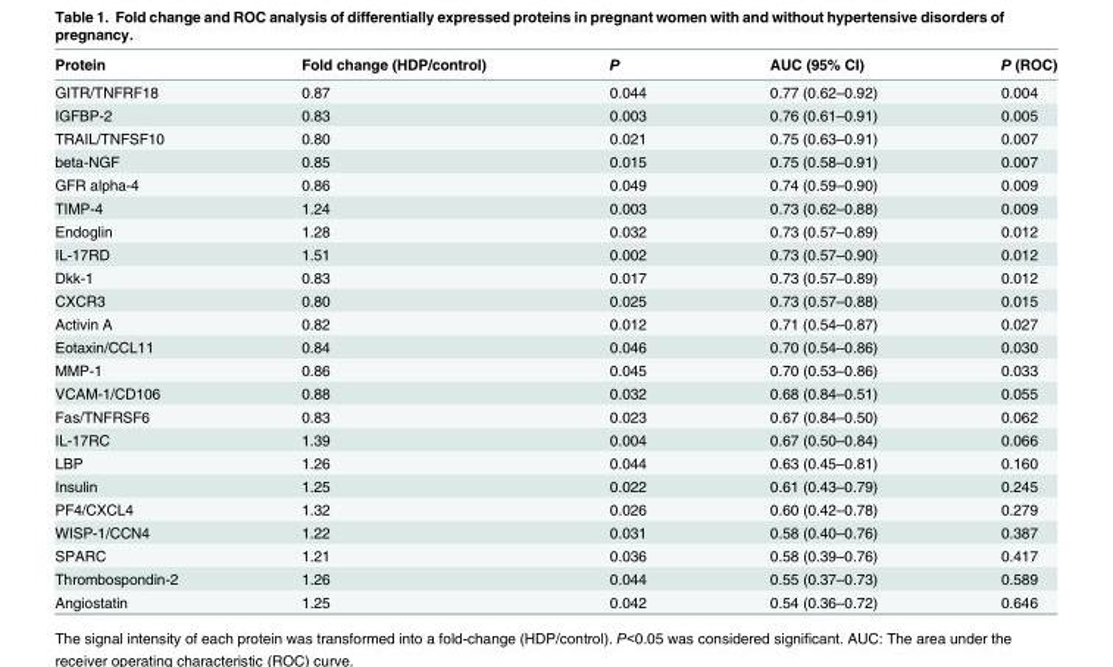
<table><thead><tr><td>Protein</td><td>Fold change (HDP/control)</td><td>P</td><td>AUC (95% CI)</td><td>P (ROC)</td></tr></thead><tbody><tr><td>GITR/TNFRF18</td><td>0.87</td><td>0.044</td><td>0.77 (0.62–0.92)</td><td>0.004</td></tr><tr><td>IGFBP-2</td><td>0.83</td><td>0.003</td><td>0.76 (0.61–0.91)</td><td>0.005</td></tr><tr><td>TRAIL/TNFSF10</td><td>0.80</td><td>0.021</td><td>0.75 (0.63–0.91)</td><td>0.007</td></tr><tr><td>beta-NGF</td><td>0.85</td><td>0.015</td><td>0.75 (0.58–0.91)</td><td>0.007</td></tr><tr><td>GFR alpha-4</td><td>0.86</td><td>0.049</td><td>0.74 (0.59–0.90)</td><td>0.009</td></tr><tr><td>TIMP-4</td><td>1.24</td><td>0.003</td><td>0.73 (0.62–0.88)</td><td>0.009</td></tr><tr><td>Endoglin</td><td>1.28</td><td>0.032</td><td>0.73 (0.57–0.89)</td><td>0.012</td></tr><tr><td>IL-17RD</td><td>1.51</td><td>0.002</td><td>0.73 (0.57–0.90)</td><td>0.012</td></tr><tr><td>Dkk-1</td><td>0.83</td><td>0.017</td><td>0.73 (0.57–0.89)</td><td>0.012</td></tr><tr><td>CXCR3</td><td>0.80</td><td>0.025</td><td>0.73 (0.57–0.88)</td><td>0.015</td></tr><tr><td>Activin A</td><td>0.82</td><td>0.012</td><td>0.71 (0.54–0.87)</td><td>0.027</td></tr><tr><td>Eotaxin/CCL11</td><td>0.84</td><td>0.046</td><td>0.70 (0.54–0.86)</td><td>0.030</td></tr><tr><td>MMP-1</td><td>0.86</td><td>0.045</td><td>0.70 (0.53–0.86)</td><td>0.033</td></tr><tr><td>VCAM-1/CD106</td><td>0.88</td><td>0.032</td><td>0.68 (0.84–0.51)</td><td>0.055</td></tr><tr><td>Fas/TNFRSF6</td><td>0.83</td><td>0.023</td><td>0.67 (0.84–0.50)</td><td>0.062</td></tr><tr><td>IL-17RC</td><td>1.39</td><td>0.004</td><td>0.67 (0.50–0.84)</td><td>0.066</td></tr><tr><td>LBP</td><td>1.26</td><td>0.044</td><td>0.63 (0.45–0.81)</td><td>0.160</td></tr><tr><td>Insulin</td><td>1.25</td><td>0.022</td><td>0.61 (0.43–0.79)</td><td>0.245</td></tr><tr><td>PF4/CXCL4</td><td>1.32</td><td>0.026</td><td>0.60 (0.42–0.78)</td><td>0.279</td></tr><tr><td>WISP-1/CCN4</td><td>1.22</td><td>0.031</td><td>0.58 (0.40–0.76)</td><td>0.387</td></tr><tr><td>SPARC</td><td>1.21</td><td>0.036</td><td>0.58 (0.39–0.76)</td><td>0.417</td></tr><tr><td>Thrombospondin-2</td><td>1.26</td><td>0.044</td><td>0.55 (0.37–0.73)</td><td>0.589</td></tr><tr><td>Angiostatin</td><td>1.25</td><td>0.042</td><td>0.54 (0.36–0.72)</td><td>0.646</td></tr></tbody></table>